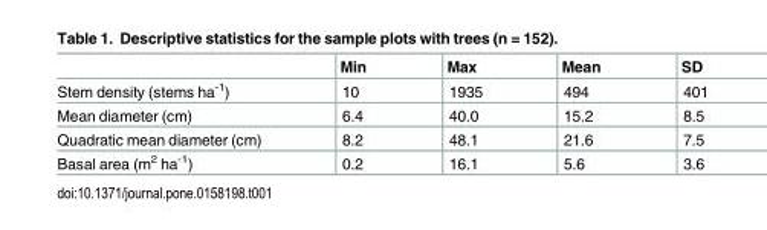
<table><thead><tr><td></td><td>Min</td><td>Max</td><td>Mean</td><td>SD</td></tr></thead><tbody><tr><td>Stem density (stems ha<sup>-1</sup>)</td><td>10</td><td>1935</td><td>494</td><td>401</td></tr><tr><td>Mean diameter (cm)</td><td>6.4</td><td>40.0</td><td>15.2</td><td>8.5</td></tr><tr><td>Quadratic mean diameter (cm)</td><td>8.2</td><td>48.1</td><td>21.6</td><td>7.5</td></tr><tr><td>Basal area (m<sup>2</sup> ha<sup>-1</sup>)</td><td>0.2</td><td>16.1</td><td>5.6</td><td>3.6</td></tr></tbody></table>